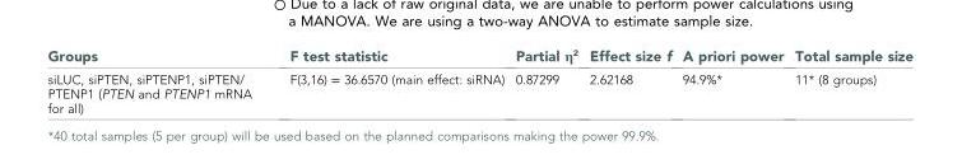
<table><thead><tr><td>Groups</td><td>F test statistic</td><td>Partial η<sup>2</sup></td><td>Effect size f</td><td>A priori power</td><td>Total sample size</td></tr></thead><tbody><tr><td>siLUC, siPTEN, siPTENP1, siPTEN/ PTENP1 (PTEN and PTENP1 mRNA for all)</td><td>F(3,16) = 36.6570 (main effect: siRNA)</td><td>0.87299</td><td>2.62168</td><td>94.9%*</td><td>11* (8 groups)</td></tr></tbody></table>